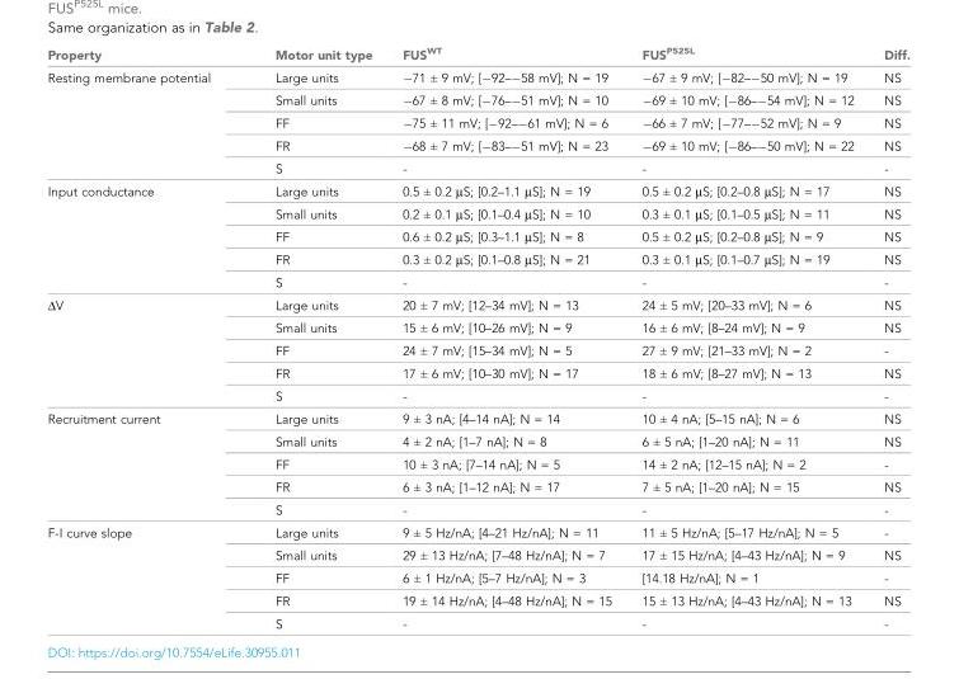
<table><thead><tr><td>Property</td><td>Motor unit type</td><td>FUS<sup>WT</sup></td><td>FUS<sup>P525L</sup></td><td>Diff.</td></tr></thead><tbody><tr><td rowspan="5">Resting membrane potential</td><td>Large units</td><td>−71 ± 9 mV; [−92–−58 mV]; N = 19</td><td>−67 ± 9 mV; [−82–−50 mV]; N = 19</td><td>NS</td></tr><tr><td>Small units</td><td>−67 ± 8 mV; [−76–−51 mV]; N = 10</td><td>−69 ± 10 mV; [−86–−54 mV]; N = 12</td><td>NS</td></tr><tr><td>FF</td><td>−75 ± 11 mV; [−92–−61 mV]; N = 6</td><td>−66 ± 7 mV; [−77–−52 mV]; N = 9</td><td>NS</td></tr><tr><td>FR</td><td>−68 ± 7 mV; [−83–−51 mV]; N = 23</td><td>−69 ± 10 mV; [−86–−50 mV]; N = 22</td><td>NS</td></tr><tr><td>S</td><td>-</td><td>-</td><td>-</td></tr><tr><td rowspan="5">Input conductance</td><td>Large units</td><td>0.5 ± 0.2 µS; [0.2–1.1 µS]; N = 19</td><td>0.5 ± 0.2 µS; [0.2–0.8 µS]; N = 17</td><td>NS</td></tr><tr><td>Small units</td><td>0.2 ± 0.1 µS; [0.1–0.4 µS]; N = 10</td><td>0.3 ± 0.1 µS; [0.1–0.5 µS]; N = 11</td><td>NS</td></tr><tr><td>FF</td><td>0.6 ± 0.2 µS; [0.3–1.1 µS]; N = 8</td><td>0.5 ± 0.2 µS; [0.2–0.8 µS]; N = 9</td><td>NS</td></tr><tr><td>FR</td><td>0.3 ± 0.2 µS; [0.1–0.8 µS]; N = 21</td><td>0.3 ± 0.1 µS; [0.1–0.7 µS]; N = 19</td><td>NS</td></tr><tr><td>S</td><td>-</td><td>-</td><td>-</td></tr><tr><td rowspan="5">∆V</td><td>Large units</td><td>20 ± 7 mV; [12–34 mV]; N = 13</td><td>24 ± 5 mV; [20–33 mV]; N = 6</td><td>NS</td></tr><tr><td>Small units</td><td>15 ± 6 mV; [10–26 mV]; N = 9</td><td>16 ± 6 mV; [8–24 mV]; N = 9</td><td>NS</td></tr><tr><td>FF</td><td>24 ± 7 mV; [15–34 mV]; N = 5</td><td>27 ± 9 mV; [21–33 mV]; N = 2</td><td>-</td></tr><tr><td>FR</td><td>17 ± 6 mV; [10–30 mV]; N = 17</td><td>18 ± 6 mV; [8–27 mV]; N = 13</td><td>NS</td></tr><tr><td>S</td><td>-</td><td>-</td><td>-</td></tr><tr><td rowspan="5">Recruitment current</td><td>Large units</td><td>9 ± 3 nA; [4–14 nA]; N = 14</td><td>10 ± 4 nA; [5–15 nA]; N = 6</td><td>NS</td></tr><tr><td>Small units</td><td>4 ± 2 nA; [1–7 nA]; N = 8</td><td>6 ± 5 nA; [1–20 nA]; N = 11</td><td>NS</td></tr><tr><td>FF</td><td>10 ± 3 nA; [7–14 nA]; N = 5</td><td>14 ± 2 nA; [12–15 nA]; N = 2</td><td>-</td></tr><tr><td>FR</td><td>6 ± 3 nA; [1–12 nA]; N = 17</td><td>7 ± 5 nA; [1–20 nA]; N = 15</td><td>NS</td></tr><tr><td>S</td><td>-</td><td>-</td><td>-</td></tr><tr><td rowspan="5">F-I curve slope</td><td>Large units</td><td>9 ± 5 Hz/nA; [4–21 Hz/nA]; N = 11</td><td>11 ± 5 Hz/nA; [5–17 Hz/nA]; N = 5</td><td>-</td></tr><tr><td>Small units</td><td>29 ± 13 Hz/nA; [7–48 Hz/nA]; N = 7</td><td>17 ± 15 Hz/nA; [4–43 Hz/nA]; N = 9</td><td>NS</td></tr><tr><td>FF</td><td>6 ± 1 Hz/nA; [5–7 Hz/nA]; N = 3</td><td>[14.18 Hz/nA]; N = 1</td><td>-</td></tr><tr><td>FR</td><td>19 ± 14 Hz/nA; [4–48 Hz/nA]; N = 15</td><td>15 ± 13 Hz/nA; [4–43 Hz/nA]; N = 13</td><td>NS</td></tr><tr><td>S</td><td>-</td><td>-</td><td>-</td></tr></tbody></table>